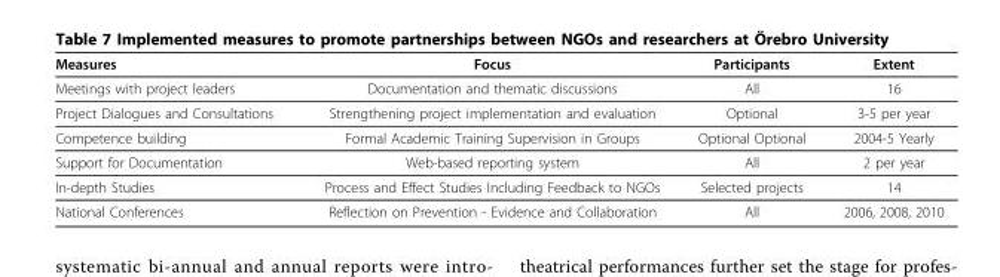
<table><thead><tr><td>Measures</td><td>Focus</td><td>Participants</td><td>Extent</td></tr></thead><tbody><tr><td>Meetings with project leaders</td><td>Documentation and thematic discussions</td><td>All</td><td>16</td></tr><tr><td>Project Dialogues and Consultations</td><td>Strengthening project implementation and evaluation</td><td>Optional</td><td>3-5 per year</td></tr><tr><td>Competence building</td><td>Formal Academic Training Supervision in Groups</td><td>Optional Optional</td><td>2004-5 Yearly</td></tr><tr><td>Support for Documentation</td><td>Web-based reporting system</td><td>All</td><td>2 per year</td></tr><tr><td>In-depth Studies</td><td>Process and Effect Studies Including Feedback to NGOs</td><td>Selected projects</td><td>14</td></tr><tr><td>National Conferences</td><td>Reflection on Prevention - Evidence and Collaboration</td><td>All</td><td>2006, 2008, 2010</td></tr></tbody></table>